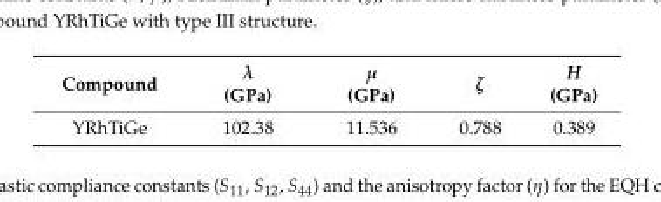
<table><thead><tr><td>Compound</td><td>λ (GPa)</td><td>µ (GPa)</td><td>ζ</td><td>H (GPa)</td></tr></thead><tbody><tr><td>YRhTiGe</td><td>102.38</td><td>11.536</td><td>0.788</td><td>0.389</td></tr></tbody></table>